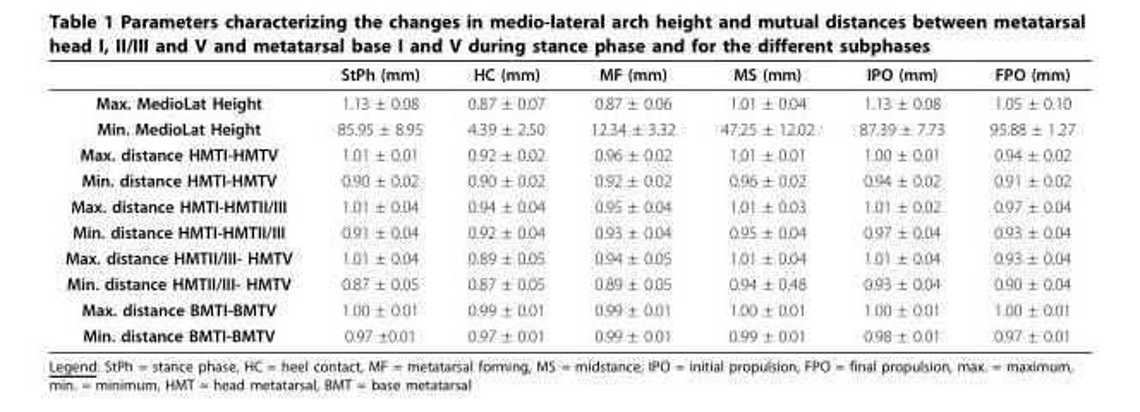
<table><thead><tr><td></td><td>StPh (mm)</td><td>HC (mm)</td><td>MF (mm)</td><td>MS (mm)</td><td>IPO (mm)</td><td>FPO (mm)</td></tr></thead><tbody><tr><td>Max. MedioLat Height</td><td>1.13 ± 0.08</td><td>0.87 ± 0.07</td><td>0.87 ± 0.06</td><td>1.01 ± 0.04</td><td>1.13 ± 0.08</td><td>1.05 ± 0.10</td></tr><tr><td>Min. MedioLat Height</td><td>85.95 ± 8.95</td><td>4.39 ± 2.50</td><td>12.34 ± 3.32</td><td>47.25 ± 12.02</td><td>87.39 ± 7.73</td><td>95.88 ± 1.27</td></tr><tr><td>Max. distance HMTI-HMTV</td><td>1.01 ± 0.01</td><td>0.92 ± 0.02</td><td>0.96 ± 0.02</td><td>1.01 ± 0.01</td><td>1.00 ± 0.01</td><td>0.94 ± 0.02</td></tr><tr><td>Min. distance HMTI-HMTV</td><td>0.90 ± 0.02</td><td>0.90 ± 0.02</td><td>0.92 ± 0.02</td><td>0.96 ± 0.02</td><td>0.94 ± 0.02</td><td>0.91 ± 0.02</td></tr><tr><td>Max. distance HMTI-HMTII/III</td><td>1.01 ± 0.04</td><td>0.94 ± 0.04</td><td>0.95 ± 0.04</td><td>1.01 ± 0.03</td><td>1.01 ± 0.02</td><td>0.97 ± 0.04</td></tr><tr><td>Min. distance HMTI-HMTII/III</td><td>0.91 ± 0.04</td><td>0.92 ± 0.04</td><td>0.93 ± 0.04</td><td>0.95 ± 0.04</td><td>0.97 ± 0.04</td><td>0.93 ± 0.04</td></tr><tr><td>Max. distance HMTII/III- HMTV</td><td>1.01 ± 0.04</td><td>0.89 ± 0.05</td><td>0.94 ± 0.05</td><td>1.01 ± 0.04</td><td>1.01 ± 0.04</td><td>0.93 ± 0.04</td></tr><tr><td>Min. distance HMTII/III- HMTV</td><td>0.87 ± 0.05</td><td>0.87 ± 0.05</td><td>0.89 ± 0.05</td><td>0.94 ± 0.48</td><td>0.93 ± 0.04</td><td>0.90 ± 0.04</td></tr><tr><td>Max. distance BMTI-BMTV</td><td>1.00 ± 0.01</td><td>0.99 ± 0.01</td><td>0.99 ± 0.01</td><td>1.00 ± 0.01</td><td>1.00 ± 0.01</td><td>1.00 ± 0.01</td></tr><tr><td>Min. distance BMTI-BMTV</td><td>0.97 ±0.01</td><td>0.97 ± 0.01</td><td>0.99 ± 0.01</td><td>0.99 ± 0.01</td><td>0.98 ± 0.01</td><td>0.97 ± 0.01</td></tr></tbody></table>